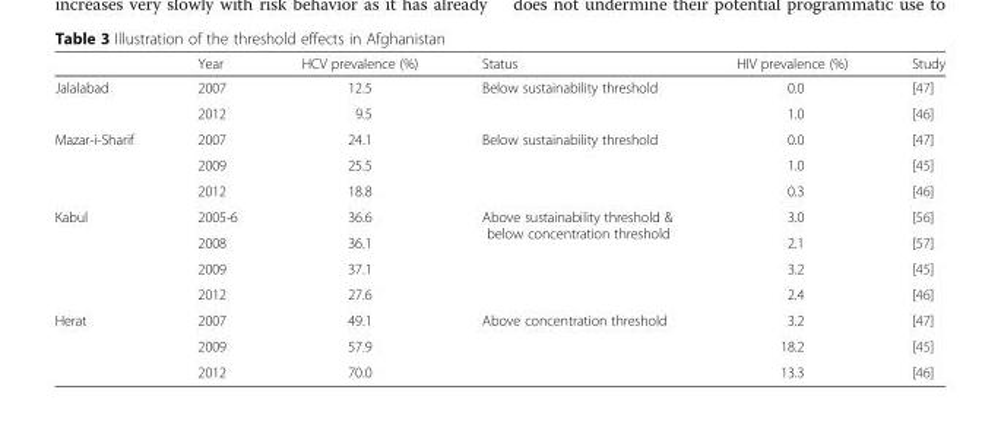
<table><thead><tr><td></td><td>Year</td><td>HCV prevalence (%)</td><td>Status</td><td>HIV prevalence (%)</td><td>Study</td></tr></thead><tbody><tr><td rowspan="2">Jalalabad</td><td>2007</td><td>12.5</td><td rowspan="2">Below sustainability threshold</td><td>0.0</td><td>[47]</td></tr><tr><td>2012</td><td>9.5</td><td>1.0</td><td>[46]</td></tr><tr><td rowspan="3">Mazar-i-Sharif</td><td>2007</td><td>24.1</td><td rowspan="3">Below sustainability threshold</td><td>0.0</td><td>[47]</td></tr><tr><td>2009</td><td>25.5</td><td>1.0</td><td>[45]</td></tr><tr><td>2012</td><td>18.8</td><td>0.3</td><td>[46]</td></tr><tr><td rowspan="4">Kabul</td><td>2005-6</td><td>36.6</td><td rowspan="4">Above sustainability threshold &amp; below concentration threshold</td><td>3.0</td><td>[56]</td></tr><tr><td>2008</td><td>36.1</td><td>2.1</td><td>[57]</td></tr><tr><td>2009</td><td>37.1</td><td>3.2</td><td>[45]</td></tr><tr><td>2012</td><td>27.6</td><td>2.4</td><td>[46]</td></tr><tr><td rowspan="3">Herat</td><td>2007</td><td>49.1</td><td rowspan="3">Above concentration threshold</td><td>3.2</td><td>[47]</td></tr><tr><td>2009</td><td>57.9</td><td>18.2</td><td>[45]</td></tr><tr><td>2012</td><td>70.0</td><td>13.3</td><td>[46]</td></tr></tbody></table>